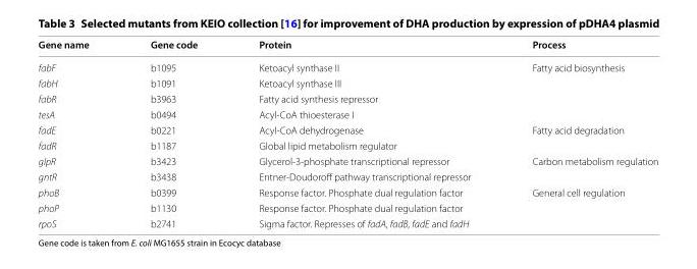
<table><thead><tr><td>Gene name</td><td>Gene code</td><td>Protein</td><td>Process</td></tr></thead><tbody><tr><td>fabF</td><td>b1095</td><td>Ketoacyl synthase II</td><td rowspan="4">Fatty acid biosynthesis</td></tr><tr><td>fabH</td><td>b1091</td><td>Ketoacyl synthase III</td></tr><tr><td>fabR</td><td>b3963</td><td>Fatty acid synthesis repressor</td></tr><tr><td>tesA</td><td>b0494</td><td>Acyl‑CoA thioesterase I</td></tr><tr><td>fadE</td><td>b0221</td><td>Acyl‑CoA dehydrogenase</td><td rowspan="2">Fatty acid degradation</td></tr><tr><td>fadR</td><td>b1187</td><td>Global lipid metabolism regulator</td></tr><tr><td>glpR</td><td>b3423</td><td>Glycerol‑3‑phosphate transcriptional repressor</td><td rowspan="2">Carbon metabolism regulation</td></tr><tr><td>gntR</td><td>b3438</td><td>Entner‑Doudoroff pathway transcriptional repressor</td></tr><tr><td>phoB</td><td>b0399</td><td>Response factor. Phosphate dual regulation factor</td><td rowspan="3">General cell regulation</td></tr><tr><td>phoP</td><td>b1130</td><td>Response factor. Phosphate dual regulation factor</td></tr><tr><td>rpoS</td><td>b2741</td><td>Sigma factor. Represses of fadA, fadB, fadE and fadH</td></tr></tbody></table>